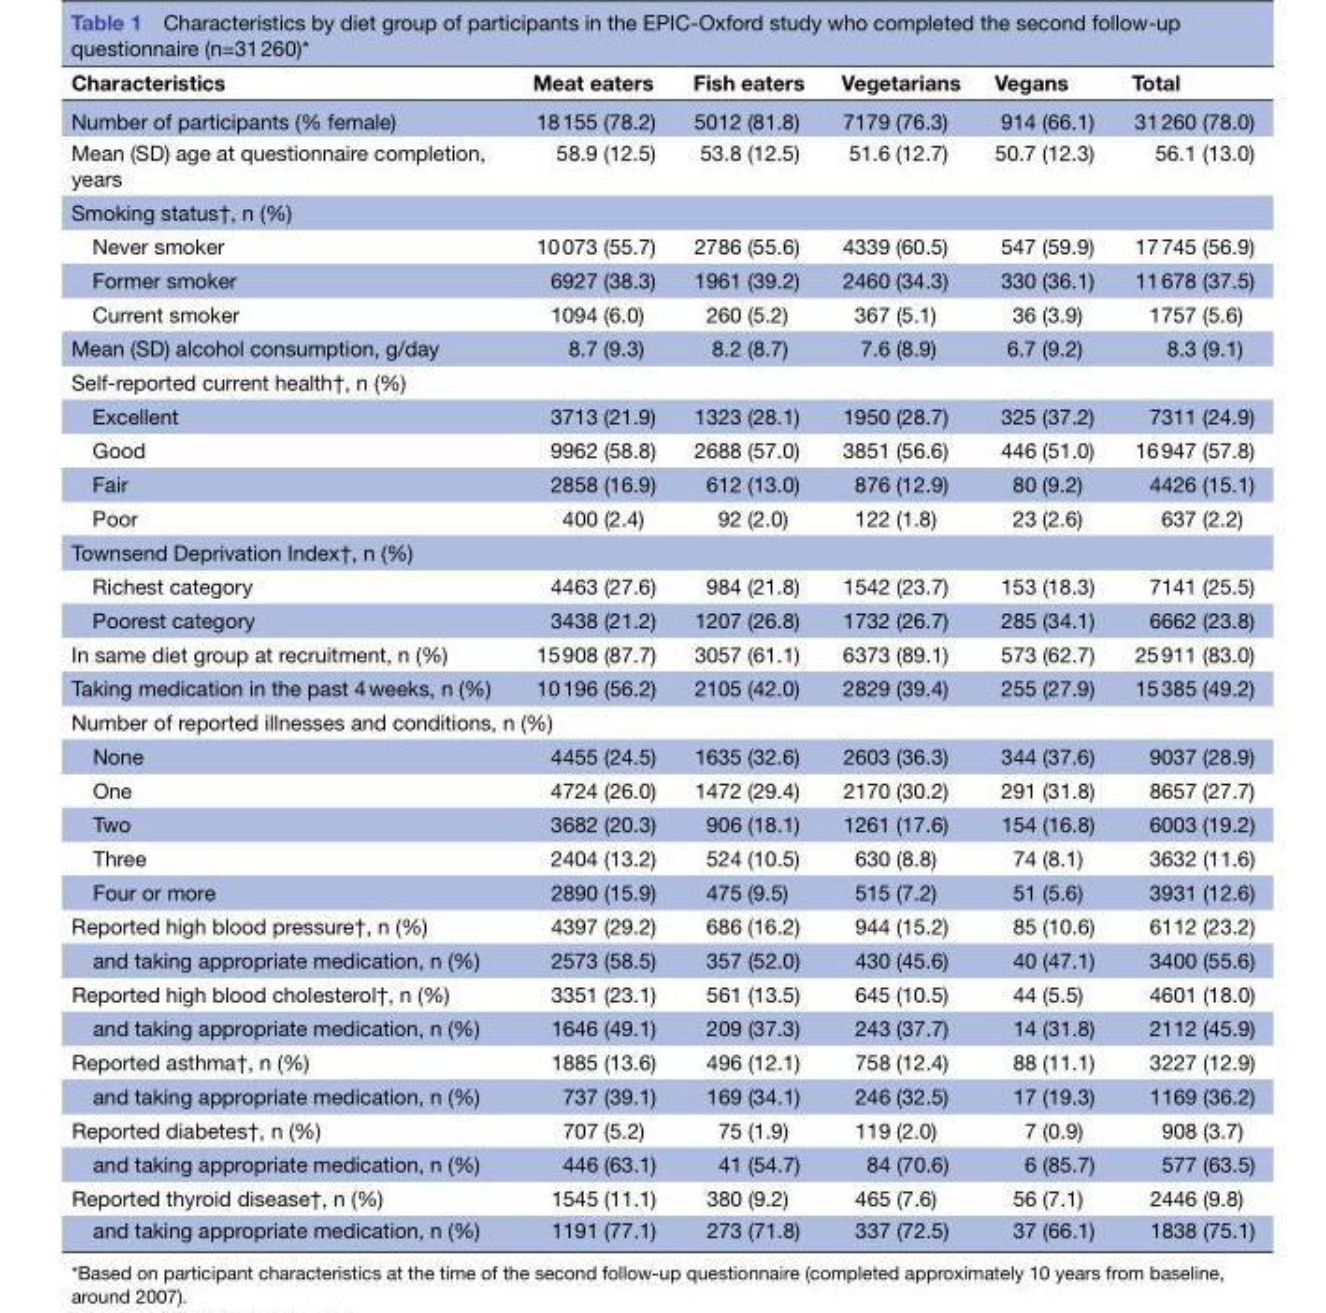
<table><thead><tr><td>Characteristics</td><td>Meat eaters</td><td>Fish eaters</td><td>Vegetarians</td><td>Vegans</td><td>Total</td></tr></thead><tbody><tr><td>Number of participants (% female)</td><td>18 155 (78.2)</td><td>5012 (81.8)</td><td>7179 (76.3)</td><td>914 (66.1)</td><td>31 260 (78.0)</td></tr><tr><td>Mean (SD) age at questionnaire completion, years</td><td>58.9 (12.5)</td><td>53.8 (12.5)</td><td>51.6 (12.7)</td><td>50.7 (12.3)</td><td>56.1 (13.0)</td></tr><tr><td colspan="6">Smoking status†, n (%)</td></tr><tr><td>Never smoker</td><td>10 073 (55.7)</td><td>2786 (55.6)</td><td>4339 (60.5)</td><td>547 (59.9)</td><td>17 745 (56.9)</td></tr><tr><td>Former smoker</td><td>6927 (38.3)</td><td>1961 (39.2)</td><td>2460 (34.3)</td><td>330 (36.1)</td><td>11 678 (37.5)</td></tr><tr><td>Current smoker</td><td>1094 (6.0)</td><td>260 (5.2)</td><td>367 (5.1)</td><td>36 (3.9)</td><td>1757 (5.6)</td></tr><tr><td>Mean (SD) alcohol consumption, g/day</td><td>8.7 (9.3)</td><td>8.2 (8.7)</td><td>7.6 (8.9)</td><td>6.7 (9.2)</td><td>8.3 (9.1)</td></tr><tr><td colspan="6">Self-reported current health†, n (%)</td></tr><tr><td>Excellent</td><td>3713 (21.9)</td><td>1323 (28.1)</td><td>1950 (28.7)</td><td>325 (37.2)</td><td>7311 (24.9)</td></tr><tr><td>Good</td><td>9962 (58.8)</td><td>2688 (57.0)</td><td>3851 (56.6)</td><td>446 (51.0)</td><td>16 947 (57.8)</td></tr><tr><td>Fair</td><td>2858 (16.9)</td><td>612 (13.0)</td><td>876 (12.9)</td><td>80 (9.2)</td><td>4426 (15.1)</td></tr><tr><td>Poor</td><td>400 (2.4)</td><td>92 (2.0)</td><td>122 (1.8)</td><td>23 (2.6)</td><td>637 (2.2)</td></tr><tr><td colspan="6">Townsend Deprivation Index†, n (%)</td></tr><tr><td>Richest category</td><td>4463 (27.6)</td><td>984 (21.8)</td><td>1542 (23.7)</td><td>153 (18.3)</td><td>7141 (25.5)</td></tr><tr><td>Poorest category</td><td>3438 (21.2)</td><td>1207 (26.8)</td><td>1732 (26.7)</td><td>285 (34.1)</td><td>6662 (23.8)</td></tr><tr><td>In same diet group at recruitment, n (%)</td><td>15 908 (87.7)</td><td>3057 (61.1)</td><td>6373 (89.1)</td><td>573 (62.7)</td><td>25 911 (83.0)</td></tr><tr><td>Taking medication in the past 4 weeks, n (%)</td><td>10 196 (56.2)</td><td>2105 (42.0)</td><td>2829 (39.4)</td><td>255 (27.9)</td><td>15 385 (49.2)</td></tr><tr><td colspan="6">Number of reported illnesses and conditions, n (%)</td></tr><tr><td>None</td><td>4455 (24.5)</td><td>1635 (32.6)</td><td>2603 (36.3)</td><td>344 (37.6)</td><td>9037 (28.9)</td></tr><tr><td>One</td><td>4724 (26.0)</td><td>1472 (29.4)</td><td>2170 (30.2)</td><td>291 (31.8)</td><td>8657 (27.7)</td></tr><tr><td>Two</td><td>3682 (20.3)</td><td>906 (18.1)</td><td>1261 (17.6)</td><td>154 (16.8)</td><td>6003 (19.2)</td></tr><tr><td>Three</td><td>2404 (13.2)</td><td>524 (10.5)</td><td>630 (8.8)</td><td>74 (8.1)</td><td>3632 (11.6)</td></tr><tr><td>Four or more</td><td>2890 (15.9)</td><td>475 (9.5)</td><td>515 (7.2)</td><td>51 (5.6)</td><td>3931 (12.6)</td></tr><tr><td>Reported high blood pressure†, n (%)</td><td>4397 (29.2)</td><td>686 (16.2)</td><td>944 (15.2)</td><td>85 (10.6)</td><td>6112 (23.2)</td></tr><tr><td>and taking appropriate medication, n (%)</td><td>2573 (58.5)</td><td>357 (52.0)</td><td>430 (45.6)</td><td>40 (47.1)</td><td>3400 (55.6)</td></tr><tr><td>Reported high blood cholesterol†, n (%)</td><td>3351 (23.1)</td><td>561 (13.5)</td><td>645 (10.5)</td><td>44 (5.5)</td><td>4601 (18.0)</td></tr><tr><td>and taking appropriate medication, n (%)</td><td>1646 (49.1)</td><td>209 (37.3)</td><td>243 (37.7)</td><td>14 (31.8)</td><td>2112 (45.9)</td></tr><tr><td>Reported asthma†, n (%)</td><td>1885 (13.6)</td><td>496 (12.1)</td><td>758 (12.4)</td><td>88 (11.1)</td><td>3227 (12.9)</td></tr><tr><td>and taking appropriate medication, n (%)</td><td>737 (39.1)</td><td>169 (34.1)</td><td>246 (32.5)</td><td>17 (19.3)</td><td>1169 (36.2)</td></tr><tr><td>Reported diabetes†, n (%)</td><td>707 (5.2)</td><td>75 (1.9)</td><td>119 (2.0)</td><td>7 (0.9)</td><td>908 (3.7)</td></tr><tr><td>and taking appropriate medication, n (%)</td><td>446 (63.1)</td><td>41 (54.7)</td><td>84 (70.6)</td><td>6 (85.7)</td><td>577 (63.5)</td></tr><tr><td>Reported thyroid disease†, n (%)</td><td>1545 (11.1)</td><td>380 (9.2)</td><td>465 (7.6)</td><td>56 (7.1)</td><td>2446 (9.8)</td></tr><tr><td>and taking appropriate medication, n (%)</td><td>1191 (77.1)</td><td>273 (71.8)</td><td>337 (72.5)</td><td>37 (66.1)</td><td>1838 (75.1)</td></tr></tbody></table>